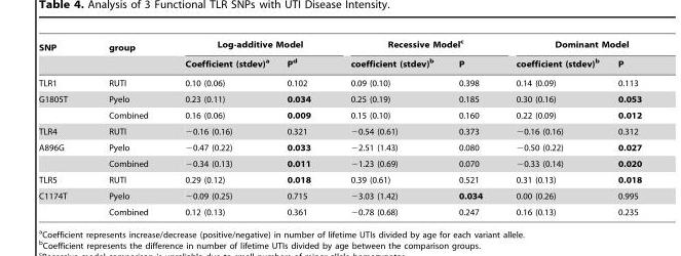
<table><thead><tr><td rowspan="2">SNP</td><td rowspan="2">group</td><td colspan="2">Log-additive Model</td><td colspan="2">Recessive Model<sup>c</sup></td><td colspan="2">Dominant Model</td></tr><tr><td>Coefficient (stdev)<sup>a</sup></td><td>P<sup>d</sup></td><td>coefficient (stdev)<sup>b</sup></td><td>P</td><td>coefficient (stdev)<sup>b</sup></td><td>P</td></tr></thead><tbody><tr><td>TLR1</td><td>RUTI</td><td>0.10 (0.06)</td><td>0.102</td><td>0.09 (0.10)</td><td>0.398</td><td>0.14 (0.09)</td><td>0.113</td></tr><tr><td rowspan="2">G1805T</td><td>Pyelo</td><td>0.23 (0.11)</td><td>0.034</td><td>0.25 (0.19)</td><td>0.185</td><td>0.30 (0.16)</td><td>0.053</td></tr><tr><td>Combined</td><td>0.16 (0.06)</td><td>0.009</td><td>0.15 (0.10)</td><td>0.160</td><td>0.22 (0.09)</td><td>0.012</td></tr><tr><td>TLR4</td><td>RUTI</td><td>−0.16 (0.16)</td><td>0.321</td><td>−0.54 (0.61)</td><td>0.373</td><td>−0.16 (0.16)</td><td>0.312</td></tr><tr><td rowspan="2">A896G</td><td>Pyelo</td><td>−0.47 (0.22)</td><td>0.033</td><td>−2.51 (1.43)</td><td>0.080</td><td>−0.50 (0.22)</td><td>0.027</td></tr><tr><td>Combined</td><td>−0.34 (0.13)</td><td>0.011</td><td>−1.23 (0.69)</td><td>0.070</td><td>−0.33 (0.14)</td><td>0.020</td></tr><tr><td>TLR5</td><td>RUTI</td><td>0.29 (0.12)</td><td>0.018</td><td>0.39 (0.61)</td><td>0.521</td><td>0.31 (0.13)</td><td>0.018</td></tr><tr><td rowspan="2">C1174T</td><td>Pyelo</td><td>−0.09 (0.25)</td><td>0.715</td><td>−3.03 (1.42)</td><td>0.034</td><td>0.00 (0.26)</td><td>0.995</td></tr><tr><td>Combined</td><td>0.12 (0.13)</td><td>0.361</td><td>−0.78 (0.68)</td><td>0.247</td><td>0.16 (0.13)</td><td>0.235</td></tr></tbody></table>